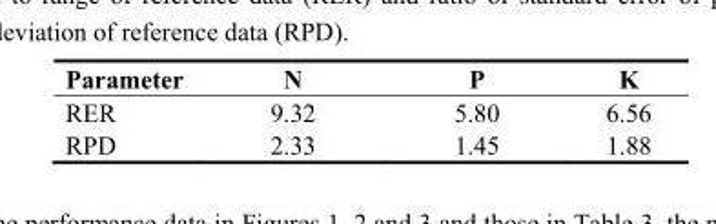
<table><thead><tr><td>Parameter</td><td>N</td><td>P</td><td>K</td></tr></thead><tbody><tr><td>RER</td><td>9.32</td><td>5.80</td><td>6.56</td></tr><tr><td>RPD</td><td>2.33</td><td>1.45</td><td>1.88</td></tr></tbody></table>